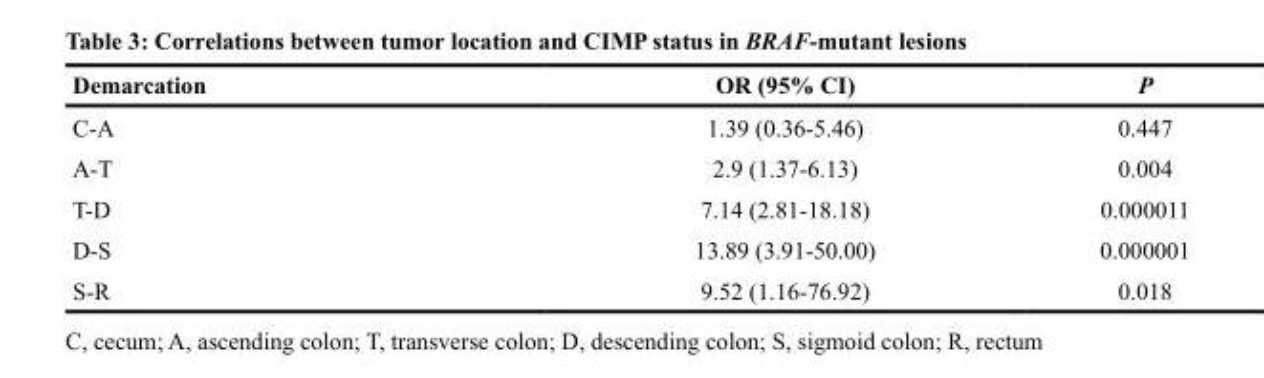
<table><thead><tr><td>Demarcation</td><td>OR (95% CI)</td><td>P</td></tr></thead><tbody><tr><td>C-A</td><td>1.39 (0.36-5.46)</td><td>0.447</td></tr><tr><td>A-T</td><td>2.9 (1.37-6.13)</td><td>0.004</td></tr><tr><td>T-D</td><td>7.14 (2.81-18.18)</td><td>0.000011</td></tr><tr><td>D-S</td><td>13.89 (3.91-50.00)</td><td>0.000001</td></tr><tr><td>S-R</td><td>9.52 (1.16-76.92)</td><td>0.018</td></tr></tbody></table>